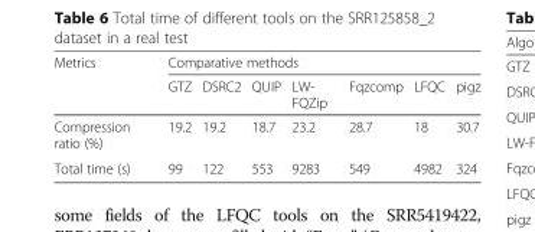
<table><thead><tr><td rowspan="2">Metrics</td><td colspan="7">Comparative methods</td></tr><tr><td>GTZ</td><td>DSRC2</td><td>QUIP</td><td>LW- FQZip</td><td>Fqzcomp</td><td>LFQC</td><td>pigz</td></tr></thead><tbody><tr><td>Compression ratio (%)</td><td>19.2</td><td>19.2</td><td>18.7</td><td>23.2</td><td>28.7</td><td>18</td><td>30.7</td></tr><tr><td>Total time (s)</td><td>99</td><td>122</td><td>553</td><td>9283</td><td>549</td><td>4982</td><td>324</td></tr></tbody></table>